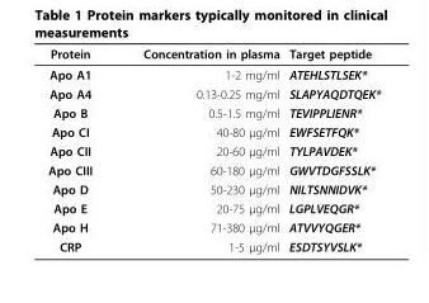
<table><thead><tr><td>Protein</td><td>Concentration in plasma</td><td>Target peptide</td></tr></thead><tbody><tr><td>Apo A1</td><td>1-2 mg/ml</td><td>ATEHLSTLSEK*</td></tr><tr><td>Apo A4</td><td>0.13-0.25 mg/ml</td><td>SLAPYAQDTQEK*</td></tr><tr><td>Apo B</td><td>0.5-1.5 mg/ml</td><td>TEVIPPLIENR*</td></tr><tr><td>Apo CI</td><td>40-80 μg/ml</td><td>EWFSETFQK*</td></tr><tr><td>Apo CII</td><td>20-60 μg/ml</td><td>TYLPAVDEK*</td></tr><tr><td>Apo CIII</td><td>60-180 μg/ml</td><td>GWVTDGFSSLK*</td></tr><tr><td>Apo D</td><td>50-230 μg/ml</td><td>NILTSNNIDVK*</td></tr><tr><td>Apo E</td><td>20-75 μg/ml</td><td>LGPLVEQGR*</td></tr><tr><td>Apo H</td><td>71-380 μg/ml</td><td>ATVVYQGER*</td></tr><tr><td>CRP</td><td>1-5 μg/ml</td><td>ESDTSYVSLK*</td></tr></tbody></table>